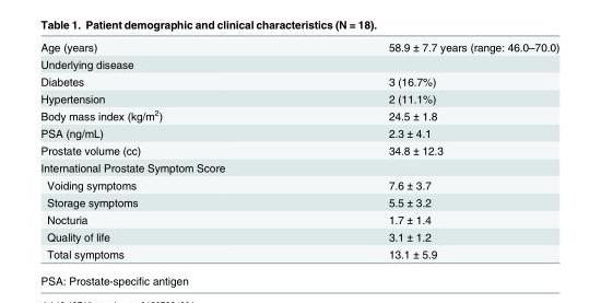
<table><tbody><tr><td>Age (years)</td><td>58.9 ± 7.7 years (range: 46.0–70.0)</td></tr><tr><td colspan="2">Underlying disease</td></tr><tr><td>Diabetes</td><td>3 (16.7%)</td></tr><tr><td>Hypertension</td><td>2 (11.1%)</td></tr><tr><td>Body mass index (kg/m<sup>2</sup>)</td><td>24.5 ± 1.8</td></tr><tr><td>PSA (ng/mL)</td><td>2.3 ± 4.1</td></tr><tr><td>Prostate volume (cc)</td><td>34.8 ± 12.3</td></tr><tr><td colspan="2">International Prostate Symptom Score</td></tr><tr><td>Voiding symptoms</td><td>7.6 ± 3.7</td></tr><tr><td>Storage symptoms</td><td>5.5 ± 3.2</td></tr><tr><td>Nocturia</td><td>1.7 ± 1.4</td></tr><tr><td>Quality of life</td><td>3.1 ± 1.2</td></tr><tr><td>Total symptoms</td><td>13.1 ± 5.9</td></tr></tbody></table>